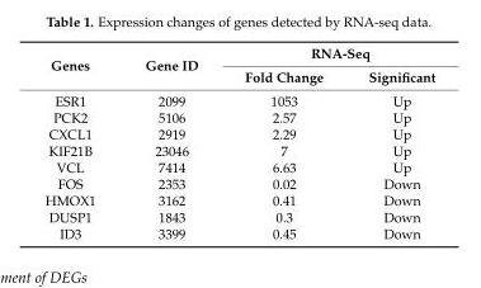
<table><thead><tr><td rowspan="2">Genes</td><td rowspan="2">Gene ID</td><td colspan="2">RNA-Seq</td></tr><tr><td>Fold Change</td><td>Significant</td></tr></thead><tbody><tr><td>ESR1</td><td>2099</td><td>1053</td><td>Up</td></tr><tr><td>PCK2</td><td>5106</td><td>2.57</td><td>Up</td></tr><tr><td>CXCL1</td><td>2919</td><td>2.29</td><td>Up</td></tr><tr><td>KIF21B</td><td>23046</td><td>7</td><td>Up</td></tr><tr><td>VCL</td><td>7414</td><td>6.63</td><td>Up</td></tr><tr><td>FOS</td><td>2353</td><td>0.02</td><td>Down</td></tr><tr><td>HMOX1</td><td>3162</td><td>0.41</td><td>Down</td></tr><tr><td>DUSP1</td><td>1843</td><td>0.3</td><td>Down</td></tr><tr><td>ID3</td><td>3399</td><td>0.45</td><td>Down</td></tr></tbody></table>